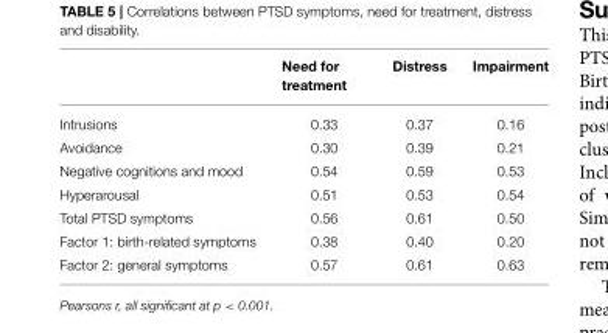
<table><thead><tr><td></td><td>Need for treatment</td><td>Distress</td><td>Impairment</td></tr></thead><tbody><tr><td>Intrusions</td><td>0.33</td><td>0.37</td><td>0.16</td></tr><tr><td>Avoidance</td><td>0.30</td><td>0.39</td><td>0.21</td></tr><tr><td>Negative cognitions and mood</td><td>0.54</td><td>0.59</td><td>0.53</td></tr><tr><td>Hyperarousal</td><td>0.51</td><td>0.53</td><td>0.54</td></tr><tr><td>Total PTSD symptoms</td><td>0.56</td><td>0.61</td><td>0.50</td></tr><tr><td>Factor 1: birth-related symptoms</td><td>0.38</td><td>0.40</td><td>0.20</td></tr><tr><td>Factor 2: general symptoms</td><td>0.57</td><td>0.61</td><td>0.63</td></tr></tbody></table>